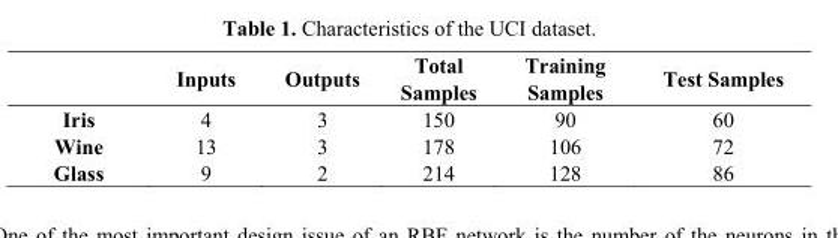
<table><thead><tr><td></td><td>Inputs</td><td>Outputs</td><td>Total Samples</td><td>Training Samples</td><td>Test Samples</td></tr></thead><tbody><tr><td>Iris</td><td>4</td><td>3</td><td>150</td><td>90</td><td>60</td></tr><tr><td>Wine</td><td>13</td><td>3</td><td>178</td><td>106</td><td>72</td></tr><tr><td>Glass</td><td>9</td><td>2</td><td>214</td><td>128</td><td>86</td></tr></tbody></table>